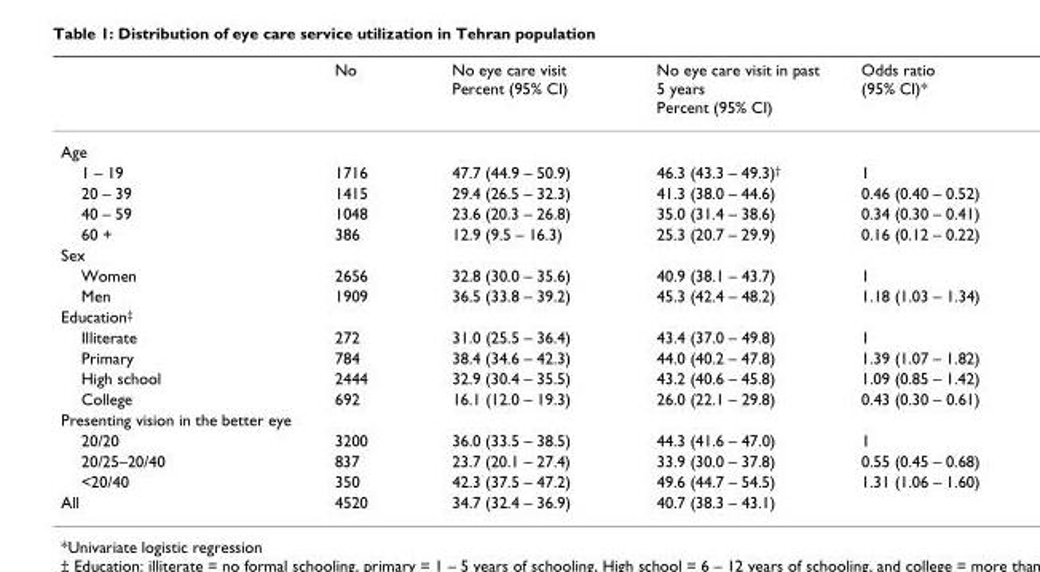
<table><thead><tr><td></td><td>No</td><td>No eye care visit Percent (95% CI)</td><td>No eye care visit in past 5 years Percent (95% CI)</td><td>Odds ratio (95% CI)*</td></tr></thead><tbody><tr><td colspan="5">Age</td></tr><tr><td>1 – 19</td><td>1716</td><td>47.7 (44.9 – 50.9)</td><td>46.3 (43.3 – 49.3)<sup>†</sup></td><td>1</td></tr><tr><td>20 – 39</td><td>1415</td><td>29.4 (26.5 – 32.3)</td><td>41.3 (38.0 – 44.6)</td><td>0.46 (0.40 – 0.52)</td></tr><tr><td>40 – 59</td><td>1048</td><td>23.6 (20.3 – 26.8)</td><td>35.0 (31.4 – 38.6)</td><td>0.34 (0.30 – 0.41)</td></tr><tr><td>60 +</td><td>386</td><td>12.9 (9.5 – 16.3)</td><td>25.3 (20.7 – 29.9)</td><td>0.16 (0.12 – 0.22)</td></tr><tr><td colspan="5">Sex</td></tr><tr><td>Women</td><td>2656</td><td>32.8 (30.0 – 35.6)</td><td>40.9 (38.1 – 43.7)</td><td>1</td></tr><tr><td>Men</td><td>1909</td><td>36.5 (33.8 – 39.2)</td><td>45.3 (42.4 – 48.2)</td><td>1.18 (1.03 – 1.34)</td></tr><tr><td colspan="5">Education<sup>‡</sup></td></tr><tr><td>Illiterate</td><td>272</td><td>31.0 (25.5 – 36.4)</td><td>43.4 (37.0 – 49.8)</td><td>1</td></tr><tr><td>Primary</td><td>784</td><td>38.4 (34.6 – 42.3)</td><td>44.0 (40.2 – 47.8)</td><td>1.39 (1.07 – 1.82)</td></tr><tr><td>High school</td><td>2444</td><td>32.9 (30.4 – 35.5)</td><td>43.2 (40.6 – 45.8)</td><td>1.09 (0.85 – 1.42)</td></tr><tr><td>College</td><td>692</td><td>16.1 (12.0 – 19.3)</td><td>26.0 (22.1 – 29.8)</td><td>0.43 (0.30 – 0.61)</td></tr><tr><td colspan="5">Presenting vision in the better eye</td></tr><tr><td>20/20</td><td>3200</td><td>36.0 (33.5 – 38.5)</td><td>44.3 (41.6 – 47.0)</td><td>1</td></tr><tr><td>20/25–20/40</td><td>837</td><td>23.7 (20.1 – 27.4)</td><td>33.9 (30.0 – 37.8)</td><td>0.55 (0.45 – 0.68)</td></tr><tr><td>&lt;20/40</td><td>350</td><td>42.3 (37.5 – 47.2)</td><td>49.6 (44.7 – 54.5)</td><td>1.31 (1.06 – 1.60)</td></tr><tr><td>All</td><td>4520</td><td>34.7 (32.4 – 36.9)</td><td>40.7 (38.3 – 43.1)</td><td></td></tr></tbody></table>